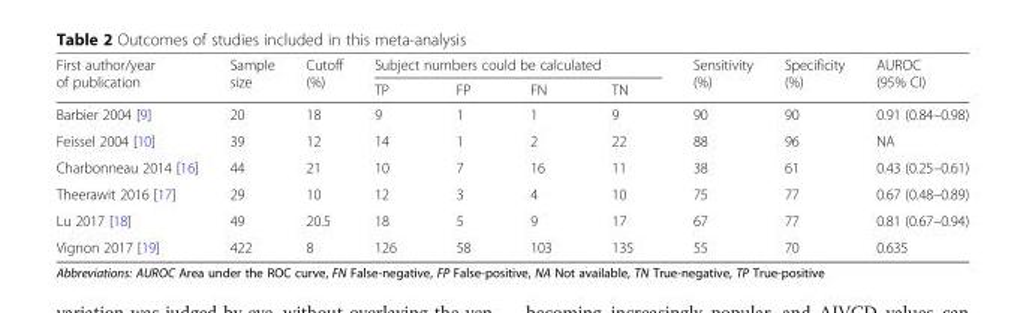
<table><thead><tr><td rowspan="2">First author/year of publication</td><td rowspan="2">Sample size</td><td rowspan="2">Cutoff (%)</td><td colspan="4">Subject numbers could be calculated</td><td rowspan="2">Sensitivity (%)</td><td rowspan="2">Specificity (%)</td><td rowspan="2">AUROC (95% CI)</td></tr><tr><td>TP</td><td>FP</td><td>FN</td><td>TN</td></tr></thead><tbody><tr><td>Barbier 2004 [9]</td><td>20</td><td>18</td><td>9</td><td>1</td><td>1</td><td>9</td><td>90</td><td>90</td><td>0.91 (0.84–0.98)</td></tr><tr><td>Feissel 2004 [10]</td><td>39</td><td>12</td><td>14</td><td>1</td><td>2</td><td>22</td><td>88</td><td>96</td><td>NA</td></tr><tr><td>Charbonneau 2014 [16]</td><td>44</td><td>21</td><td>10</td><td>7</td><td>16</td><td>11</td><td>38</td><td>61</td><td>0.43 (0.25–0.61)</td></tr><tr><td>Theerawit 2016 [17]</td><td>29</td><td>10</td><td>12</td><td>3</td><td>4</td><td>10</td><td>75</td><td>77</td><td>0.67 (0.48–0.89)</td></tr><tr><td>Lu 2017 [18]</td><td>49</td><td>20.5</td><td>18</td><td>5</td><td>9</td><td>17</td><td>67</td><td>77</td><td>0.81 (0.67–0.94)</td></tr><tr><td>Vignon 2017 [19]</td><td>422</td><td>8</td><td>126</td><td>58</td><td>103</td><td>135</td><td>55</td><td>70</td><td>0.635</td></tr></tbody></table>